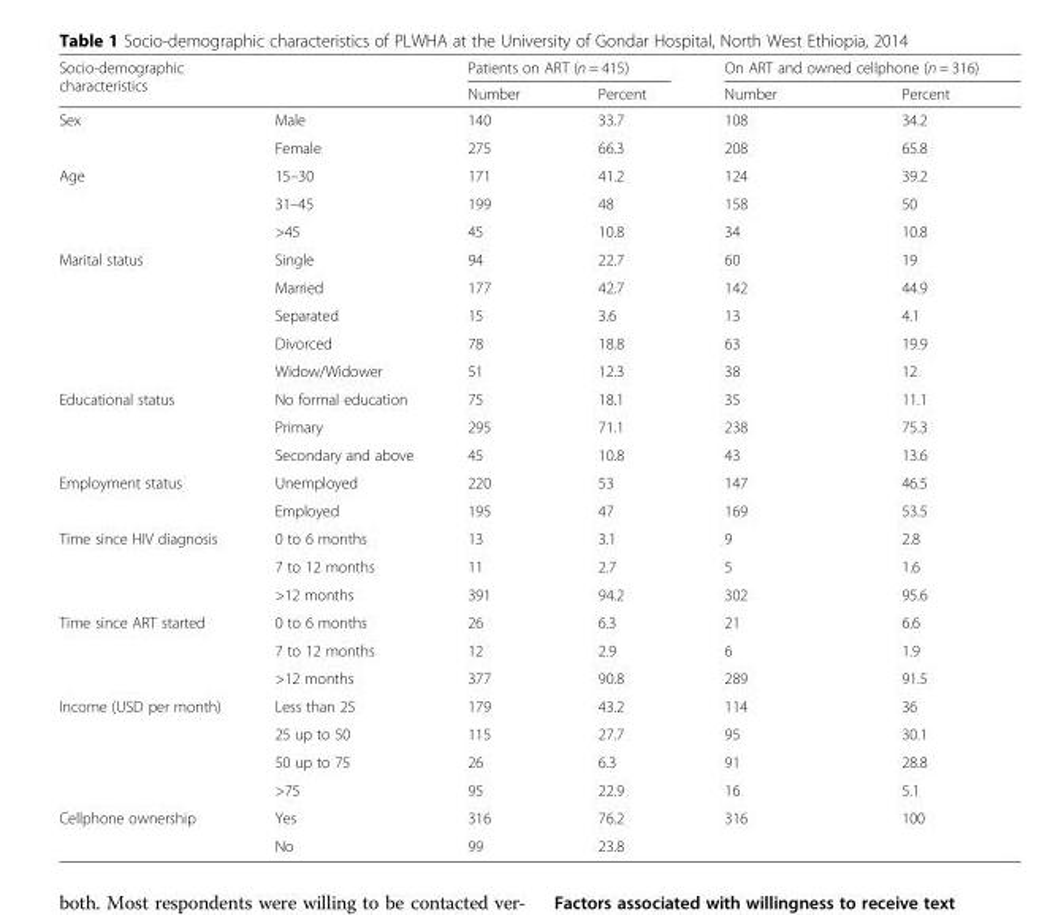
<table><thead><tr><td rowspan="2" colspan="2">Socio-demographic characteristics</td><td colspan="2">Patients on ART (n = 415)</td><td colspan="2">On ART and owned cellphone (n = 316)</td></tr><tr><td rowspan="2">Number 140</td><td rowspan="2">Percent 33.7</td><td rowspan="2">Number 108</td><td rowspan="2">Percent 34.2</td></tr><tr><td>Sex</td><td>Male</td></tr></thead><tbody><tr><td></td><td>Female</td><td>275</td><td>66.3</td><td>208</td><td>65.8</td></tr><tr><td rowspan="3">Age</td><td>15–30</td><td>171</td><td>41.2</td><td>124</td><td>39.2</td></tr><tr><td>31–45</td><td>199</td><td>48</td><td>158</td><td>50</td></tr><tr><td>&gt;45</td><td>45</td><td>10.8</td><td>34</td><td>10.8</td></tr><tr><td rowspan="5">Marital status</td><td>Single</td><td>94</td><td>22.7</td><td>60</td><td>19</td></tr><tr><td>Married</td><td>177</td><td>42.7</td><td>142</td><td>44.9</td></tr><tr><td>Separated</td><td>15</td><td>3.6</td><td>13</td><td>4.1</td></tr><tr><td>Divorced</td><td>78</td><td>18.8</td><td>63</td><td>19.9</td></tr><tr><td>Widow/Widower</td><td>51</td><td>12.3</td><td>38</td><td>12</td></tr><tr><td rowspan="3">Educational status</td><td>No formal education</td><td>75</td><td>18.1</td><td>35</td><td>11.1</td></tr><tr><td>Primary</td><td>295</td><td>71.1</td><td>238</td><td>75.3</td></tr><tr><td>Secondary and above</td><td>45</td><td>10.8</td><td>43</td><td>13.6</td></tr><tr><td rowspan="2">Employment status</td><td>Unemployed</td><td>220</td><td>53</td><td>147</td><td>46.5</td></tr><tr><td>Employed</td><td>195</td><td>47</td><td>169</td><td>53.5</td></tr><tr><td rowspan="3">Time since HIV diagnosis</td><td>0 to 6 months</td><td>13</td><td>3.1</td><td>9</td><td>2.8</td></tr><tr><td>7 to 12 months</td><td>11</td><td>2.7</td><td>5</td><td>1.6</td></tr><tr><td>&gt;12 months</td><td>391</td><td>94.2</td><td>302</td><td>95.6</td></tr><tr><td rowspan="3">Time since ART started</td><td>0 to 6 months</td><td>26</td><td>6.3</td><td>21</td><td>6.6</td></tr><tr><td>7 to 12 months</td><td>12</td><td>2.9</td><td>6</td><td>1.9</td></tr><tr><td>&gt;12 months</td><td>377</td><td>90.8</td><td>289</td><td>91.5</td></tr><tr><td rowspan="4">Income (USD per month)</td><td>Less than 25</td><td>179</td><td>43.2</td><td>114</td><td>36</td></tr><tr><td>25 up to 50</td><td>115</td><td>27.7</td><td>95</td><td>30.1</td></tr><tr><td>50 up to 75</td><td>26</td><td>6.3</td><td>91</td><td>28.8</td></tr><tr><td>&gt;75</td><td>95</td><td>22.9</td><td>16</td><td>5.1</td></tr><tr><td rowspan="2">Cellphone ownership</td><td>Yes</td><td>316</td><td>76.2</td><td>316</td><td>100</td></tr><tr><td>No</td><td>99</td><td>23.8</td><td colspan="2"></td></tr></tbody></table>